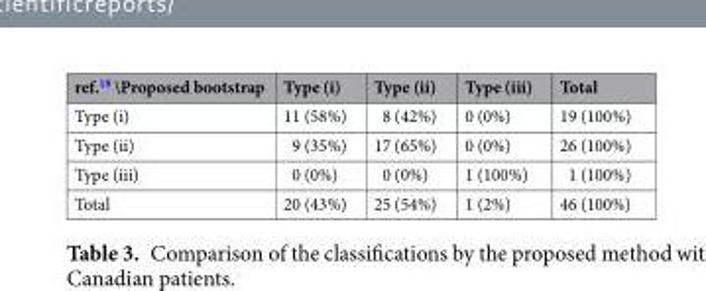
<table><thead><tr><td>ref.<sup>18</sup> \Proposed bootstrap</td><td>Type (i)</td><td>Type (ii)</td><td>Type (iii)</td><td>Total</td></tr></thead><tbody><tr><td>Type (i)</td><td>11 (58%)</td><td>8 (42%)</td><td>0 (0%)</td><td>19 (100%)</td></tr><tr><td>Type (ii)</td><td>9 (35%)</td><td>17 (65%)</td><td>0 (0%)</td><td>26 (100%)</td></tr><tr><td>Type (iii)</td><td>0 (0%)</td><td>0 (0%)</td><td>1 (100%)</td><td>1 (100%)</td></tr><tr><td>Total</td><td>20 (43%)</td><td>25 (54%)</td><td>1 (2%)</td><td>46 (100%)</td></tr></tbody></table>